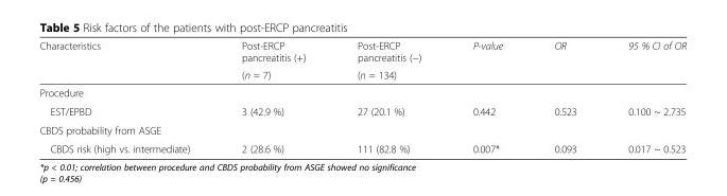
<table><thead><tr><td rowspan="2">Characteristics</td><td rowspan="2">Post-ERCP pancreatitis (+) (n = 7)</td><td rowspan="2">Post-ERCP pancreatitis (−) (n = 134)</td><td rowspan="2">P-value</td><td rowspan="2">OR</td><td rowspan="2">95 % CI of OR</td></tr><tr></tr></thead><tbody><tr><td colspan="6">Procedure</td></tr><tr><td>EST/EPBD</td><td>3 (42.9 %)</td><td>27 (20.1 %)</td><td>0.442</td><td>0.523</td><td>0.100 ~ 2.735</td></tr><tr><td colspan="6">CBDS probability from ASGE</td></tr><tr><td>CBDS risk (high vs. intermediate)</td><td>2 (28.6 %)</td><td>111 (82.8 %)</td><td>0.007*</td><td>0.093</td><td>0.017 ~ 0.523</td></tr></tbody></table>